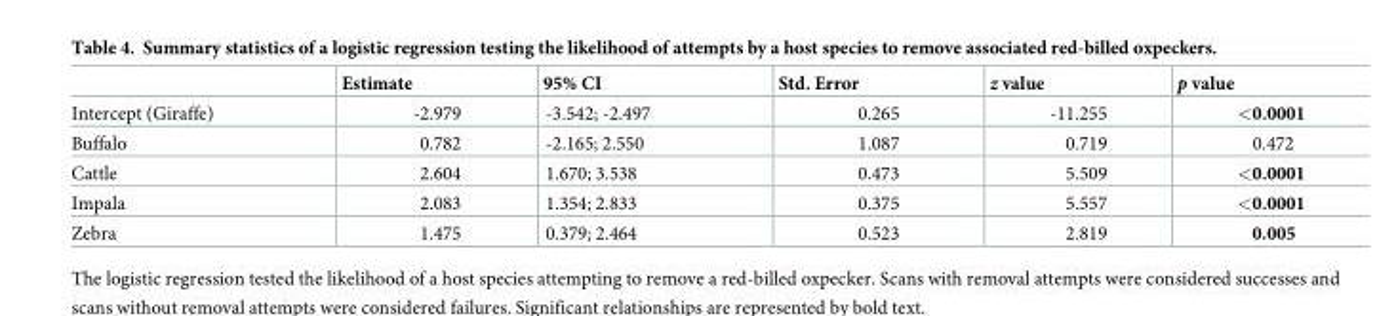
<table><thead><tr><td></td><td>Estimate</td><td>95% CI</td><td>Std. Error</td><td>z value</td><td>p value</td></tr></thead><tbody><tr><td>Intercept (Giraffe)</td><td>-2.979</td><td>-3.542; -2.497</td><td>0.265</td><td>-11.255</td><td>&lt;0.0001</td></tr><tr><td>Buffalo</td><td>0.782</td><td>-2.165; 2.550</td><td>1.087</td><td>0.719</td><td>0.472</td></tr><tr><td>Cattle</td><td>2.604</td><td>1.670; 3.538</td><td>0.473</td><td>5.509</td><td>&lt;0.0001</td></tr><tr><td>Impala</td><td>2.083</td><td>1.354; 2.833</td><td>0.375</td><td>5.557</td><td>&lt;0.0001</td></tr><tr><td>Zebra</td><td>1.475</td><td>0.379; 2.464</td><td>0.523</td><td>2.819</td><td>0.005</td></tr></tbody></table>